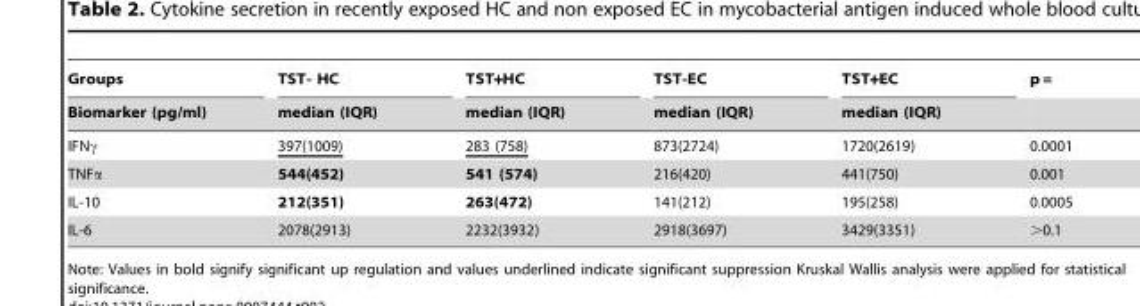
<table><thead><tr><td rowspan="2">Groups Biomarker (pg/ml)</td><td rowspan="2">TST- HC median (IQR)</td><td rowspan="2">TST+HC median (IQR)</td><td rowspan="2">TST-EC median (IQR)</td><td rowspan="2">TST+EC median (IQR)</td><td rowspan="2">p =</td></tr><tr></tr></thead><tbody><tr><td>IFNγ</td><td>397(1009)</td><td>283 (758)</td><td>873(2724)</td><td>1720(2619)</td><td>0.0001</td></tr><tr><td>TNFα</td><td>544(452)</td><td>541 (574)</td><td>216(420)</td><td>441(750)</td><td>0.001</td></tr><tr><td>IL-10</td><td>212(351)</td><td>263(472)</td><td>141(212)</td><td>195(258)</td><td>0.0005</td></tr><tr><td>IL-6</td><td>2078(2913)</td><td>2232(3932)</td><td>2918(3697)</td><td>3429(3351)</td><td>&gt;0.1</td></tr></tbody></table>